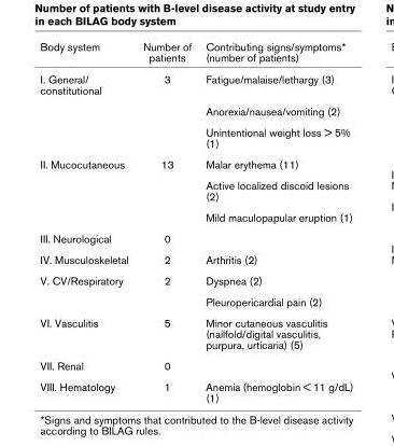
<table><thead><tr><td>Body system</td><td>Number of patients</td><td>Contributing signs/symptoms* (number of patients)</td></tr></thead><tbody><tr><td rowspan="3">I. General/ constitutional</td><td>3</td><td>Fatigue/malaise/lethargy (3)</td></tr><tr><td></td><td>Anorexia/nausea/vomiting (2)</td></tr><tr><td></td><td>Unintentional weight loss &gt; 5% (1)</td></tr><tr><td rowspan="3">II. Mucocutaneous</td><td>13</td><td>Malar erythema (11)</td></tr><tr><td></td><td>Active localized discoid lesions (2)</td></tr><tr><td></td><td>Mild maculopapular eruption (1)</td></tr><tr><td>III. Neurological</td><td>0</td><td></td></tr><tr><td>IV. Musculoskeletal</td><td>2</td><td>Arthritis (2)</td></tr><tr><td rowspan="2">V. CV/Respiratory</td><td>2</td><td>Dyspnea (2)</td></tr><tr><td></td><td>Pleuropericardial pain (2)</td></tr><tr><td>VI. Vasculitis</td><td>5</td><td>Minor cutaneous vasculitis (nailfold/digital vasculitis, purpura, urticaria) (5)</td></tr><tr><td>VII. Renal</td><td>0</td><td></td></tr><tr><td>VIII. Hematology</td><td>1</td><td>Anemia (hemoglobin &lt; 11 g/dL) (1)</td></tr></tbody></table>